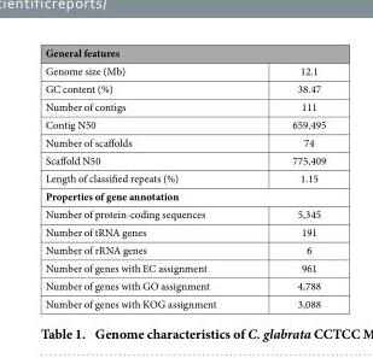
<table><thead><tr><td colspan="2">General features</td></tr><tr><td>Genome size (Mb)</td><td>12.1</td></tr></thead><tbody><tr><td>GC content (%)</td><td>38.47</td></tr><tr><td>Number of contigs</td><td>111</td></tr><tr><td>Contig N50</td><td>659,495</td></tr><tr><td>Number of scaffolds</td><td>74</td></tr><tr><td>Scaffold N50</td><td>775,409</td></tr><tr><td>Length of classified repeats (%)</td><td>1.15</td></tr><tr><td colspan="2">Properties of gene annotation</td></tr><tr><td>Number of protein-coding sequences</td><td>5,345</td></tr><tr><td>Number of tRNA genes</td><td>191</td></tr><tr><td>Number of rRNA genes</td><td>6</td></tr><tr><td>Number of genes with EC assignment</td><td>961</td></tr><tr><td>Number of genes with GO assignment</td><td>4,788</td></tr><tr><td>Number of genes with KOG assignment</td><td>3,088</td></tr></tbody></table>